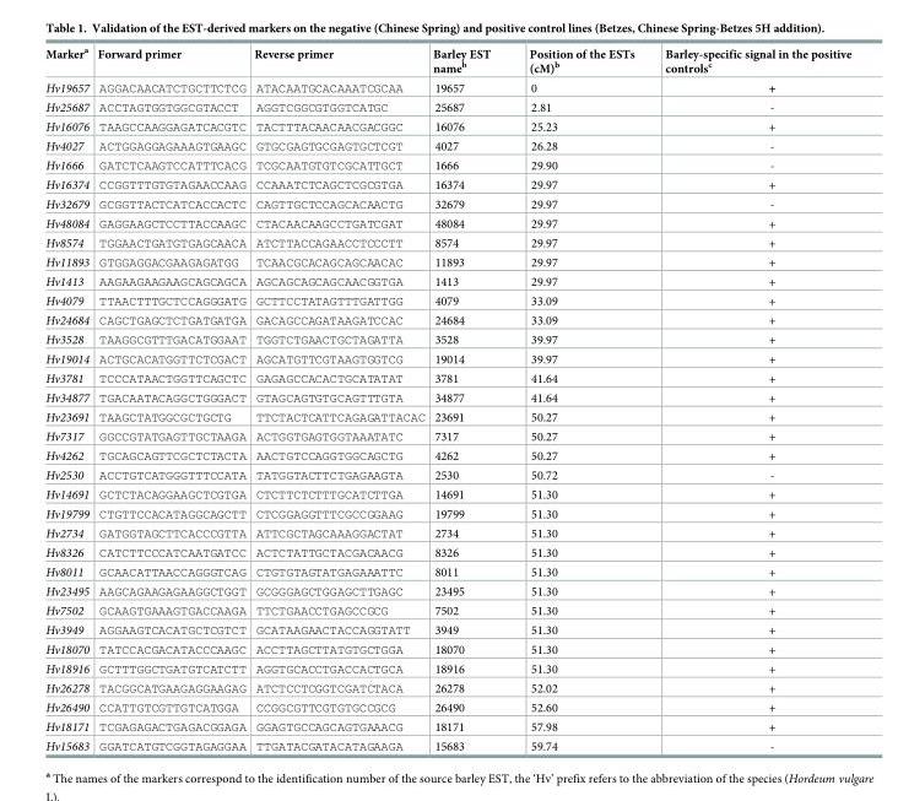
<table><thead><tr><td>Marker<sup>a</sup></td><td>Forward primer</td><td>Reverse primer</td><td>Barley EST name<sup>b</sup></td><td>Position of the ESTs (cM)<sup>b</sup></td><td>Barley-specific signal in the positive controls<sup>c</sup></td></tr></thead><tbody><tr><td>Hv19657</td><td>AGGACAACATCTGCTTCTCG</td><td>ATACAATGCACAAATCGCAA</td><td>19657</td><td>0</td><td>+</td></tr><tr><td>Hv25687</td><td>ACCTAGTGGTGGCGTACCT</td><td>AGGTCGGCGTGGTCATGC</td><td>25687</td><td>2.81</td><td>-</td></tr><tr><td>Hv16076</td><td>TAAGCCAAGGAGATCACGTC</td><td>TACTTTACAACAACGACGGC</td><td>16076</td><td>25.23</td><td>+</td></tr><tr><td>Hv4027</td><td>ACTGGAGGAGAAAGTGAAGC</td><td>GTGCGAGTGCGAGTGCTCGT</td><td>4027</td><td>26.28</td><td>-</td></tr><tr><td>Hv1666</td><td>GATCTCAAGTCCATTTCACG</td><td>TCGCAATGTGTCGCATTGCT</td><td>1666</td><td>29.90</td><td>-</td></tr><tr><td>Hv16374</td><td>CCGGTTTGTGTAGAACCAAG</td><td>CCAAATCTCAGCTCGCGTGA</td><td>16374</td><td>29.97</td><td>+</td></tr><tr><td>Hv32679</td><td>GCGGTTACTCATCACCACTC</td><td>CAGTTGCTCCAGCACAACTG</td><td>32679</td><td>29.97</td><td>-</td></tr><tr><td>Hv48084</td><td>GAGGAAGCTCCTTACCAAGC</td><td>CTACAACAAGCCTGATCGAT</td><td>48084</td><td>29.97</td><td>+</td></tr><tr><td>Hv8574</td><td>TGGAACTGATGTGAGCAACA</td><td>ATCTTACCAGAACCTCCCTT</td><td>8574</td><td>29.97</td><td>+</td></tr><tr><td>Hv11893</td><td>GTGGAGGACGAAGAGATGG</td><td>TCAACGCACAGCAGCAACAC</td><td>11893</td><td>29.97</td><td>+</td></tr><tr><td>Hv1413</td><td>AAGAAGAAGAAGCAGCAGCA</td><td>AGCAGCAGCAGCAACGGTGA</td><td>1413</td><td>29.97</td><td>+</td></tr><tr><td>Hv4079</td><td>TTAACTTTGCTCCAGGGATG</td><td>GCTTCCTATAGTTTGATTGG</td><td>4079</td><td>33.09</td><td>+</td></tr><tr><td>Hv24684</td><td>CAGCTGAGCTCTGATGATGA</td><td>GACAGCCAGATAAGATCCAC</td><td>24684</td><td>33.09</td><td>+</td></tr><tr><td>Hv3528</td><td>TAAGGCGTTTGACATGGAAT</td><td>TGGTCTGAACTGCTAGATTA</td><td>3528</td><td>39.97</td><td>+</td></tr><tr><td>Hv19014</td><td>ACTGCACATGGTTCTCGACT</td><td>AGCATGTTCGTAAGTGGTCG</td><td>19014</td><td>39.97</td><td>+</td></tr><tr><td>Hv3781</td><td>TCCCATAACTGGTTCAGCTC</td><td>GAGAGCCACACTGCATATAT</td><td>3781</td><td>41.64</td><td>+</td></tr><tr><td>Hv34877</td><td>TGACAATACAGGCTGGGACT</td><td>GTAGCAGTGTGCAGTTTGTA</td><td>34877</td><td>41.64</td><td>+</td></tr><tr><td>Hv23691</td><td>TAAGCTATGGCGCTGCTG</td><td>TTCTACTCATTCAGAGATTACAC</td><td>23691</td><td>50.27</td><td>+</td></tr><tr><td>Hv7317</td><td>GGCCGTATGAGTTGCTAAGA</td><td>ACTGGTGAGTGGTAAATATC</td><td>7317</td><td>50.27</td><td>+</td></tr><tr><td>Hv4262</td><td>TGCAGCAGTTCGCTCTACTA</td><td>AACTGTCCAGGTGGCAGCTG</td><td>4262</td><td>50.27</td><td>+</td></tr><tr><td>Hv2530</td><td>ACCTGTCATGGGTTTCCATA</td><td>TATGGTACTTCTGAGAAGTA</td><td>2530</td><td>50.72</td><td>-</td></tr><tr><td>Hv14691</td><td>GCTCTACAGGAAGCTCGTGA</td><td>CTCTTCTCTTTGCATCTTGA</td><td>14691</td><td>51.30</td><td>+</td></tr><tr><td>Hv19799</td><td>CTGTTCCACATAGGCAGCTT</td><td>CTCGGAGGTTTCGCCGGAAG</td><td>19799</td><td>51.30</td><td>+</td></tr><tr><td>Hv2734</td><td>GATGGTAGCTTCACCCGTTA</td><td>ATTCGCTAGCAAAGGACTAT</td><td>2734</td><td>51.30</td><td>+</td></tr><tr><td>Hv8326</td><td>CATCTTCCCATCAATGATCC</td><td>ACTCTATTGCTACGACAACG</td><td>8326</td><td>51.30</td><td>+</td></tr><tr><td>Hv8011</td><td>GCAACATTAACCAGGGTCAG</td><td>CTGTGTAGTATGAGAAATTC</td><td>8011</td><td>51.30</td><td>+</td></tr><tr><td>Hv23495</td><td>AAGCAGAAGAGAAGGCTGGT</td><td>GCGGGAGCTGGAGCTTGAGC</td><td>23495</td><td>51.30</td><td>+</td></tr><tr><td>Hv7502</td><td>GCAAGTGAAAGTGACCAAGA</td><td>TTCTGAACCTGAGCCGCG</td><td>7502</td><td>51.30</td><td>+</td></tr><tr><td>Hv3949</td><td>AGGAAGTCACATGCTCGTCT</td><td>GCATAAGAACTACCAGGTATT</td><td>3949</td><td>51.30</td><td>+</td></tr><tr><td>Hv18070</td><td>TATCCACGACATACCCAAGC</td><td>ACCTTAGCTTATGTGCTGGA</td><td>18070</td><td>51.30</td><td>+</td></tr><tr><td>Hv18916</td><td>GCTTTGGCTGATGTCATCTT</td><td>AGGTGCACCTGACCACTGCA</td><td>18916</td><td>51.30</td><td>+</td></tr><tr><td>Hv26278</td><td>TACGGCATGAAGAGGAAGAG</td><td>ATCTCCTCGGTCGATCTACA</td><td>26278</td><td>52.02</td><td>+</td></tr><tr><td>Hv26490</td><td>CCATTGTCGTTGTCATGGA</td><td>CCGGCGTTCGTGTGCCGCG</td><td>26490</td><td>52.60</td><td>+</td></tr><tr><td>Hv18171</td><td>TCGAGAGACTGAGACGGAGA</td><td>GGAGTGCCAGCAGTGAAACG</td><td>18171</td><td>57.98</td><td>+</td></tr><tr><td>Hv15683</td><td>GGATCATGTCGGTAGAGGAA</td><td>TTGATACGATACATAGAAGA</td><td>15683</td><td>59.74</td><td>-</td></tr></tbody></table>